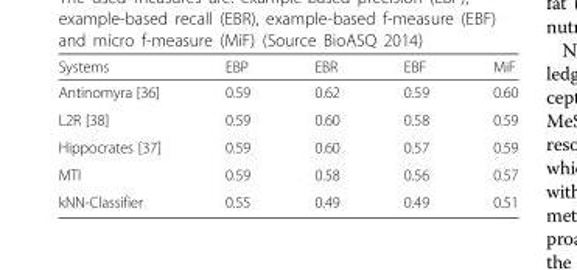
<table><thead><tr><td>Systems</td><td>EBP</td><td>EBR</td><td>EBF</td><td>MiF</td></tr></thead><tbody><tr><td>Antinomyra [36]</td><td>0.59</td><td>0.62</td><td>0.59</td><td>0.60</td></tr><tr><td>L2R [38]</td><td>0.59</td><td>0.60</td><td>0.58</td><td>0.59</td></tr><tr><td>Hippocrates [37]</td><td>0.59</td><td>0.60</td><td>0.57</td><td>0.59</td></tr><tr><td>MTI</td><td>0.59</td><td>0.58</td><td>0.56</td><td>0.57</td></tr><tr><td>kNN-Classifier</td><td>0.55</td><td>0.49</td><td>0.49</td><td>0.51</td></tr></tbody></table>